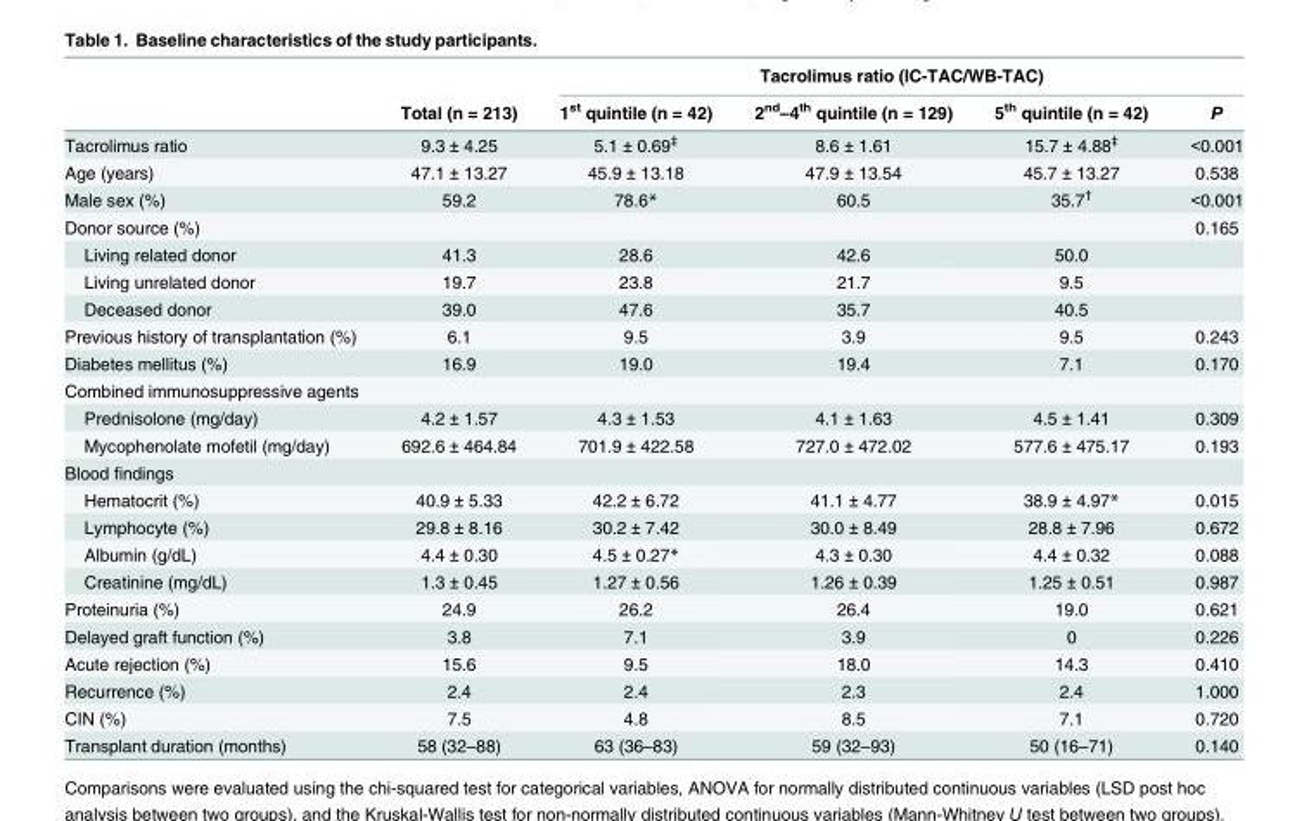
<table><thead><tr><td rowspan="2"></td><td rowspan="2">Total (n = 213)</td><td colspan="4">Tacrolimus ratio (IC-TAC/WB-TAC)</td></tr><tr><td>1<sup>st</sup> quintile (n = 42)</td><td>2<sup>nd</sup>–4<sup>th</sup> quintile (n = 129)</td><td>5<sup>th</sup> quintile (n = 42)</td><td>P</td></tr></thead><tbody><tr><td>Tacrolimus ratio</td><td>9.3 ± 4.25</td><td>5.1 ± 0.69<sup>‡</sup></td><td>8.6 ± 1.61</td><td>15.7 ± 4.88<sup>‡</sup></td><td>&lt;0.001</td></tr><tr><td>Age (years)</td><td>47.1 ± 13.27</td><td>45.9 ± 13.18</td><td>47.9 ± 13.54</td><td>45.7 ± 13.27</td><td>0.538</td></tr><tr><td>Male sex (%)</td><td>59.2</td><td>78.6*</td><td>60.5</td><td>35.7<sup>†</sup></td><td>&lt;0.001</td></tr><tr><td>Donor source (%)</td><td></td><td></td><td></td><td></td><td>0.165</td></tr><tr><td>Living related donor</td><td>41.3</td><td>28.6</td><td>42.6</td><td>50.0</td><td></td></tr><tr><td>Living unrelated donor</td><td>19.7</td><td>23.8</td><td>21.7</td><td>9.5</td><td></td></tr><tr><td>Deceased donor</td><td>39.0</td><td>47.6</td><td>35.7</td><td>40.5</td><td></td></tr><tr><td>Previous history of transplantation (%)</td><td>6.1</td><td>9.5</td><td>3.9</td><td>9.5</td><td>0.243</td></tr><tr><td>Diabetes mellitus (%)</td><td>16.9</td><td>19.0</td><td>19.4</td><td>7.1</td><td>0.170</td></tr><tr><td colspan="6">Combined immunosuppressive agents</td></tr><tr><td>Prednisolone (mg/day)</td><td>4.2 ± 1.57</td><td>4.3 ± 1.53</td><td>4.1 ± 1.63</td><td>4.5 ± 1.41</td><td>0.309</td></tr><tr><td>Mycophenolate mofetil (mg/day)</td><td>692.6 ± 464.84</td><td>701.9 ± 422.58</td><td>727.0 ± 472.02</td><td>577.6 ± 475.17</td><td>0.193</td></tr><tr><td colspan="6">Blood findings</td></tr><tr><td>Hematocrit (%)</td><td>40.9 ± 5.33</td><td>42.2 ± 6.72</td><td>41.1 ± 4.77</td><td>38.9 ± 4.97*</td><td>0.015</td></tr><tr><td>Lymphocyte (%)</td><td>29.8 ± 8.16</td><td>30.2 ± 7.42</td><td>30.0 ± 8.49</td><td>28.8 ± 7.96</td><td>0.672</td></tr><tr><td>Albumin (g/dL)</td><td>4.4 ± 0.30</td><td>4.5 ± 0.27*</td><td>4.3 ± 0.30</td><td>4.4 ± 0.32</td><td>0.088</td></tr><tr><td>Creatinine (mg/dL)</td><td>1.3 ± 0.45</td><td>1.27 ± 0.56</td><td>1.26 ± 0.39</td><td>1.25 ± 0.51</td><td>0.987</td></tr><tr><td>Proteinuria (%)</td><td>24.9</td><td>26.2</td><td>26.4</td><td>19.0</td><td>0.621</td></tr><tr><td>Delayed graft function (%)</td><td>3.8</td><td>7.1</td><td>3.9</td><td>0</td><td>0.226</td></tr><tr><td>Acute rejection (%)</td><td>15.6</td><td>9.5</td><td>18.0</td><td>14.3</td><td>0.410</td></tr><tr><td>Recurrence (%)</td><td>2.4</td><td>2.4</td><td>2.3</td><td>2.4</td><td>1.000</td></tr><tr><td>CIN (%)</td><td>7.5</td><td>4.8</td><td>8.5</td><td>7.1</td><td>0.720</td></tr><tr><td>Transplant duration (months)</td><td>58 (32–88)</td><td>63 (36–83)</td><td>59 (32–93)</td><td>50 (16–71)</td><td>0.140</td></tr></tbody></table>